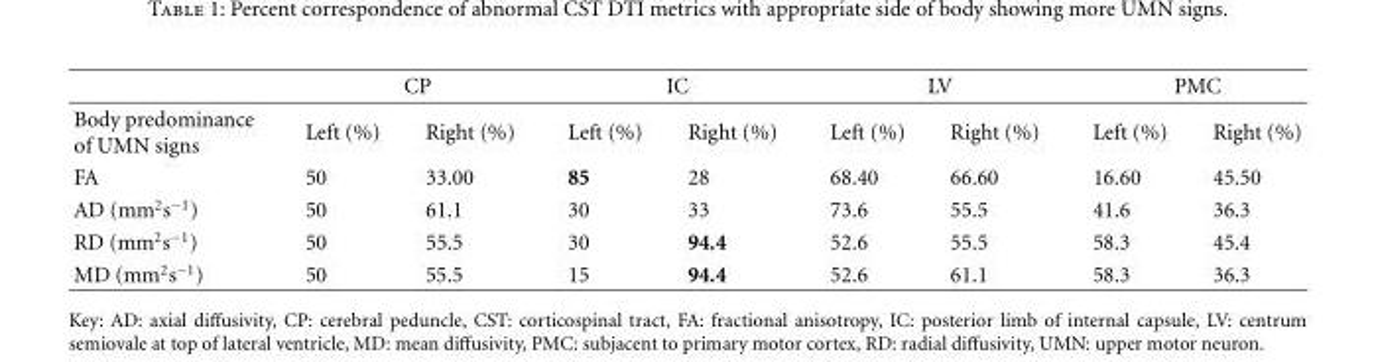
<table><thead><tr><td rowspan="2">Body predominance of UMN signs</td><td colspan="2">CP</td><td colspan="2">IC</td><td colspan="2">LV</td><td colspan="2">PMC</td></tr><tr><td>Left (%)</td><td>Right (%)</td><td>Left (%)</td><td>Right (%)</td><td>Left (%)</td><td>Right (%)</td><td>Left (%)</td><td>Right (%)</td></tr></thead><tbody><tr><td>FA</td><td>50</td><td>33.00</td><td>85</td><td>28</td><td>68.40</td><td>66.60</td><td>16.60</td><td>45.50</td></tr><tr><td>AD (mm<sup>2</sup>s<sup>−1</sup>)</td><td>50</td><td>61.1</td><td>30</td><td>33</td><td>73.6</td><td>55.5</td><td>41.6</td><td>36.3</td></tr><tr><td>RD (mm<sup>2</sup>s<sup>−1</sup>)</td><td>50</td><td>55.5</td><td>30</td><td>94.4</td><td>52.6</td><td>55.5</td><td>58.3</td><td>45.4</td></tr><tr><td>MD (mm<sup>2</sup>s<sup>−1</sup>)</td><td>50</td><td>55.5</td><td>15</td><td>94.4</td><td>52.6</td><td>61.1</td><td>58.3</td><td>36.3</td></tr></tbody></table>